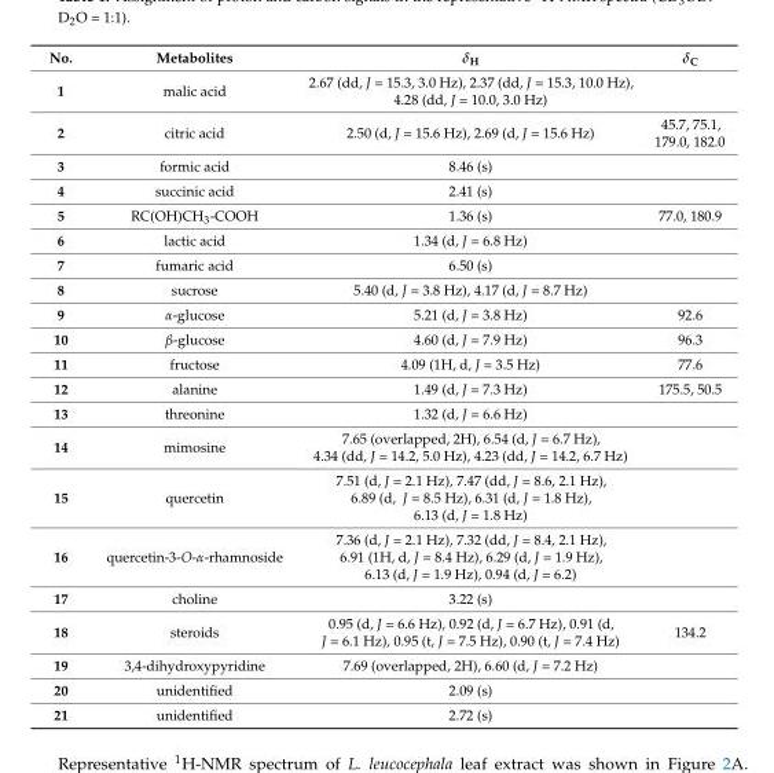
<table><thead><tr><td>No.</td><td>Metabolites</td><td>δ<sub>H</sub></td><td>δ<sub>C</sub></td></tr></thead><tbody><tr><td>1</td><td>malic acid</td><td>2.67 (dd, J = 15.3, 3.0 Hz), 2.37 (dd, J = 15.3, 10.0 Hz), 4.28 (dd, J = 10.0, 3.0 Hz)</td><td></td></tr><tr><td>2</td><td>citric acid</td><td>2.50 (d, J = 15.6 Hz), 2.69 (d, J = 15.6 Hz)</td><td>45.7, 75.1, 179.0, 182.0</td></tr><tr><td>3</td><td>formic acid</td><td>8.46 (s)</td><td></td></tr><tr><td>4</td><td>succinic acid</td><td>2.41 (s)</td><td></td></tr><tr><td>5</td><td>RC(OH)CH<sub>3</sub>-COOH</td><td>1.36 (s)</td><td>77.0, 180.9</td></tr><tr><td>6</td><td>lactic acid</td><td>1.34 (d, J = 6.8 Hz)</td><td></td></tr><tr><td>7</td><td>fumaric acid</td><td>6.50 (s)</td><td></td></tr><tr><td>8</td><td>sucrose</td><td>5.40 (d, J = 3.8 Hz), 4.17 (d, J = 8.7 Hz)</td><td></td></tr><tr><td>9</td><td>α-glucose</td><td>5.21 (d, J = 3.8 Hz)</td><td>92.6</td></tr><tr><td>10</td><td>β-glucose</td><td>4.60 (d, J = 7.9 Hz)</td><td>96.3</td></tr><tr><td>11</td><td>fructose</td><td>4.09 (1H, d, J = 3.5 Hz)</td><td>77.6</td></tr><tr><td>12</td><td>alanine</td><td>1.49 (d, J = 7.3 Hz)</td><td>175.5, 50.5</td></tr><tr><td>13</td><td>threonine</td><td>1.32 (d, J = 6.6 Hz)</td><td></td></tr><tr><td>14</td><td>mimosine</td><td>7.65 (overlapped, 2H), 6.54 (d, J = 6.7 Hz), 4.34 (dd, J = 14.2, 5.0 Hz), 4.23 (dd, J = 14.2, 6.7 Hz)</td><td></td></tr><tr><td>15</td><td>quercetin</td><td>7.51 (d, J = 2.1 Hz), 7.47 (dd, J = 8.6, 2.1 Hz), 6.89 (d, J = 8.5 Hz), 6.31 (d, J = 1.8 Hz), 6.13 (d, J = 1.8 Hz)</td><td></td></tr><tr><td>16</td><td>quercetin-3-O-α-rhamnoside</td><td>7.36 (d, J = 2.1 Hz), 7.32 (dd, J = 8.4, 2.1 Hz), 6.91 (1H, d, J = 8.4 Hz), 6.29 (d, J = 1.9 Hz), 6.13 (d, J = 1.9 Hz), 0.94 (d, J = 6.2)</td><td></td></tr><tr><td>17</td><td>choline</td><td>3.22 (s)</td><td></td></tr><tr><td>18</td><td>steroids</td><td>0.95 (d, J = 6.6 Hz), 0.92 (d, J = 6.7 Hz), 0.91 (d, J = 6.1 Hz), 0.95 (t, J = 7.5 Hz), 0.90 (t, J = 7.4 Hz)</td><td>134.2</td></tr><tr><td>19</td><td>3,4-dihydroxypyridine</td><td>7.69 (overlapped, 2H), 6.60 (d, J = 7.2 Hz)</td><td></td></tr><tr><td>20</td><td>unidentified</td><td>2.09 (s)</td><td></td></tr><tr><td>21</td><td>unidentified</td><td>2.72 (s)</td><td></td></tr></tbody></table>